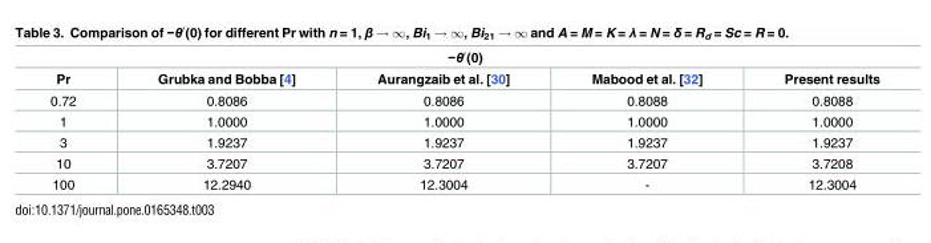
<table><thead><tr><td colspan="5">−θ′(0)</td></tr><tr><td>Pr</td><td>Grubka and Bobba [4]</td><td>Aurangzaib et al. [30]</td><td>Mabood et al. [32]</td><td>Present results</td></tr></thead><tbody><tr><td>0.72</td><td>0.8086</td><td>0.8086</td><td>0.8088</td><td>0.8088</td></tr><tr><td>1</td><td>1.0000</td><td>1.0000</td><td>1.0000</td><td>1.0000</td></tr><tr><td>3</td><td>1.9237</td><td>1.9237</td><td>1.9237</td><td>1.9237</td></tr><tr><td>10</td><td>3.7207</td><td>3.7207</td><td>3.7207</td><td>3.7208</td></tr><tr><td>100</td><td>12.2940</td><td>12.3004</td><td>-</td><td>12.3004</td></tr></tbody></table>